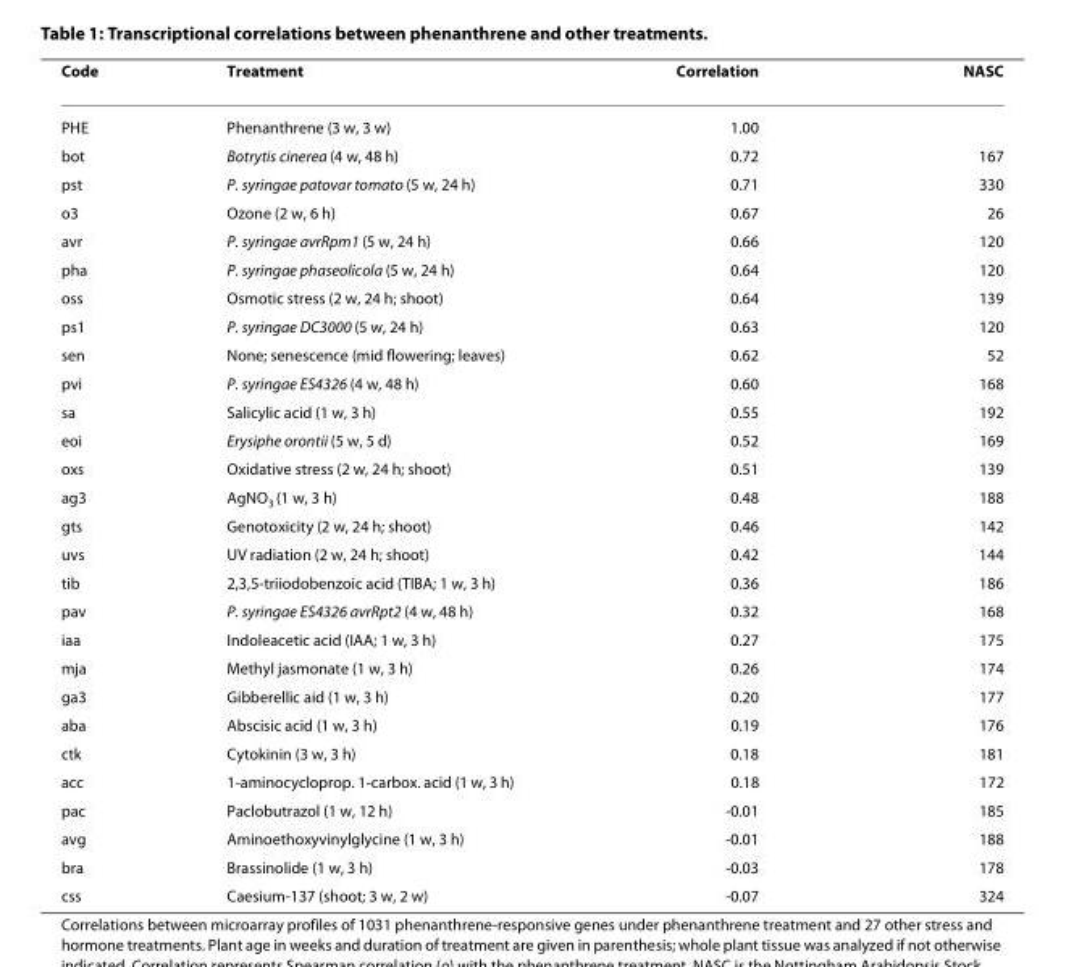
<table><thead><tr><td>Code</td><td>Treatment</td><td>Correlation</td><td>NASC</td></tr></thead><tbody><tr><td>PHE</td><td>Phenanthrene (3 w, 3 w)</td><td>1.00</td><td></td></tr><tr><td>bot</td><td>Botrytis cinerea (4 w, 48 h)</td><td>0.72</td><td>167</td></tr><tr><td>pst</td><td>P. syringae patovar tomato (5 w, 24 h)</td><td>0.71</td><td>330</td></tr><tr><td>o3</td><td>Ozone (2 w, 6 h)</td><td>0.67</td><td>26</td></tr><tr><td>avr</td><td>P. syringae avrRpm1 (5 w, 24 h)</td><td>0.66</td><td>120</td></tr><tr><td>pha</td><td>P. syringae phaseolicola (5 w, 24 h)</td><td>0.64</td><td>120</td></tr><tr><td>oss</td><td>Osmotic stress (2 w, 24 h; shoot)</td><td>0.64</td><td>139</td></tr><tr><td>ps1</td><td>P. syringae DC3000 (5 w, 24 h)</td><td>0.63</td><td>120</td></tr><tr><td>sen</td><td>None; senescence (mid flowering; leaves)</td><td>0.62</td><td>52</td></tr><tr><td>pvi</td><td>P. syringae ES4326 (4 w, 48 h)</td><td>0.60</td><td>168</td></tr><tr><td>sa</td><td>Salicylic acid (1 w, 3 h)</td><td>0.55</td><td>192</td></tr><tr><td>eoi</td><td>Erysiphe orontii (5 w, 5 d)</td><td>0.52</td><td>169</td></tr><tr><td>oxs</td><td>Oxidative stress (2 w, 24 h; shoot)</td><td>0.51</td><td>139</td></tr><tr><td>ag3</td><td>AgNO<sub>3</sub> (1 w, 3 h)</td><td>0.48</td><td>188</td></tr><tr><td>gts</td><td>Genotoxicity (2 w, 24 h; shoot)</td><td>0.46</td><td>142</td></tr><tr><td>uvs</td><td>UV radiation (2 w, 24 h; shoot)</td><td>0.42</td><td>144</td></tr><tr><td>tib</td><td>2,3,5-triiodobenzoic acid (TIBA; 1 w, 3 h)</td><td>0.36</td><td>186</td></tr><tr><td>pav</td><td>P. syringae ES4326 avrRpt2 (4 w, 48 h)</td><td>0.32</td><td>168</td></tr><tr><td>iaa</td><td>Indoleacetic acid (IAA; 1 w, 3 h)</td><td>0.27</td><td>175</td></tr><tr><td>mja</td><td>Methyl jasmonate (1 w, 3 h)</td><td>0.26</td><td>174</td></tr><tr><td>ga3</td><td>Gibberellic aid (1 w, 3 h)</td><td>0.20</td><td>177</td></tr><tr><td>aba</td><td>Abscisic acid (1 w, 3 h)</td><td>0.19</td><td>176</td></tr><tr><td>ctk</td><td>Cytokinin (3 w, 3 h)</td><td>0.18</td><td>181</td></tr><tr><td>acc</td><td>1-aminocycloprop. 1-carbox. acid (1 w, 3 h)</td><td>0.18</td><td>172</td></tr><tr><td>pac</td><td>Paclobutrazol (1 w, 12 h)</td><td>-0.01</td><td>185</td></tr><tr><td>avg</td><td>Aminoethoxyvinylglycine (1 w, 3 h)</td><td>-0.01</td><td>188</td></tr><tr><td>bra</td><td>Brassinolide (1 w, 3 h)</td><td>-0.03</td><td>178</td></tr><tr><td>css</td><td>Caesium-137 (shoot; 3 w, 2 w)</td><td>-0.07</td><td>324</td></tr></tbody></table>